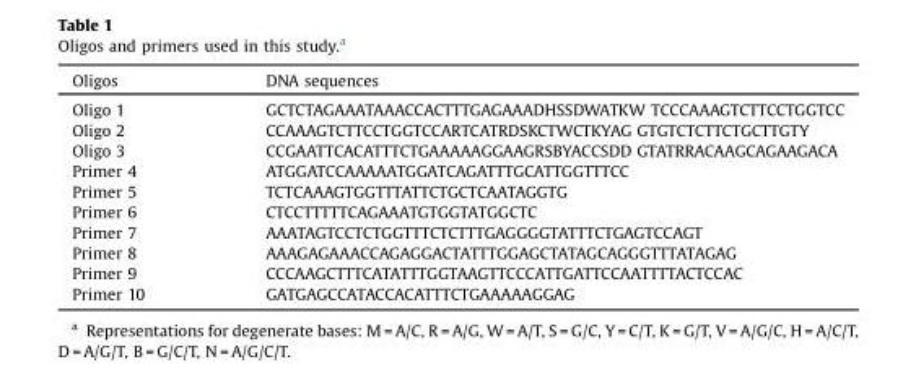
<table><thead><tr><td>Oligos</td><td>DNA sequences</td></tr></thead><tbody><tr><td>Oligo 1</td><td>GCTCTAGAAATAAACCACTTTGAGAAADHSSDWATKW TCCCAAAGTCTTCCTGGTCC</td></tr><tr><td>Oligo 2</td><td>CCAAAGTCTTCCTGGTCCARTCATRDSKCTWCTKYAG GTGTCTCTTCTGCTTGTY</td></tr><tr><td>Oligo 3</td><td>CCGAATTCACATTTCTGAAAAAGGAAGRSBYACCSDD GTATRRACAAGCAGAAGACA</td></tr><tr><td>Primer 4</td><td>ATGGATCCAAAAATGGATCAGATTTGCATTGGTTTCC</td></tr><tr><td>Primer 5</td><td>TCTCAAAGTGGTTTATTCTGCTCAATAGGTG</td></tr><tr><td>Primer 6</td><td>CTCCTTTTTCAGAAATGTGGTATGGCTC</td></tr><tr><td>Primer 7</td><td>AAATAGTCCTCTGGTTTCTCTTTGAGGGGTATTTCTGAGTCCAGT</td></tr><tr><td>Primer 8</td><td>AAAGAGAAACCAGAGGACTATTTGGAGCTATAGCAGGGTTTATAGAG</td></tr><tr><td>Primer 9</td><td>CCCAAGCTTTCATATTTGGTAAGTTCCCATTGATTCCAATTTTACTCCAC</td></tr><tr><td>Primer 10</td><td>GATGAGCCATACCACATTTCTGAAAAAGGAG</td></tr></tbody></table>